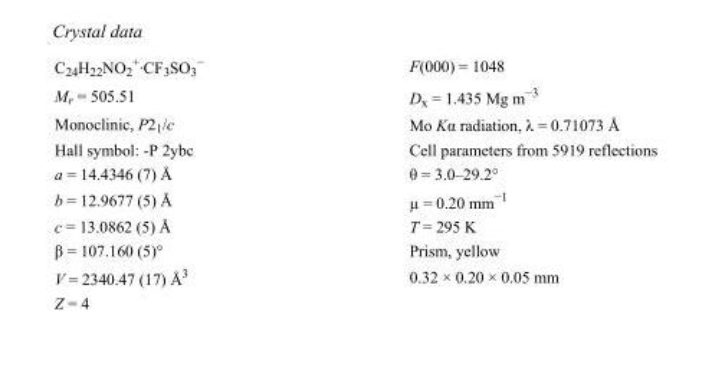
<table><tbody><tr><td>C<sub>24</sub>H<sub>22</sub>NO<sub>2</sub> <sup>+</sup>·CF<sub>3</sub>SO<sub>3</sub> <sup>−</sup></td><td>F(000) = 1048</td></tr><tr><td>M<sub>r</sub> = 505.51</td><td>D<sub>x</sub> = 1.435 Mg m<sup>−3</sup></td></tr><tr><td>Monoclinic, P2<sub>1</sub>/c</td><td>Mo Kα radiation, λ = 0.71073 Å</td></tr><tr><td>Hall symbol: -P 2ybc</td><td>Cell parameters from 5919 reflections</td></tr><tr><td>a = 14.4346 (7) Å</td><td>θ = 3.0–29.2°</td></tr><tr><td>b = 12.9677 (5) Å</td><td>µ = 0.20 mm<sup>−1</sup></td></tr><tr><td>c = 13.0862 (5) Å</td><td>T = 295 K</td></tr><tr><td>β = 107.160 (5)°</td><td>Prism, yellow</td></tr><tr><td>V = 2340.47 (17) Å<sup>3</sup></td><td>0.32 × 0.20 × 0.05 mm</td></tr><tr><td>Z = 4</td><td></td></tr></tbody></table>